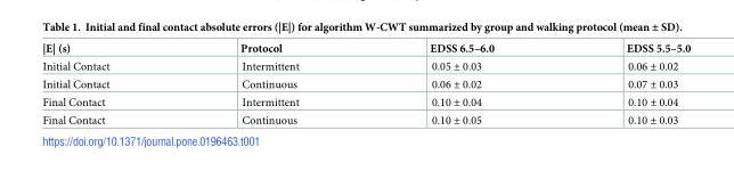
<table><thead><tr><td>|E| (s)</td><td>Protocol</td><td>EDSS 6.5–6.0</td><td>EDSS 5.5–5.0</td></tr></thead><tbody><tr><td>Initial Contact</td><td>Intermittent</td><td>0.05 ± 0.03</td><td>0.06 ± 0.02</td></tr><tr><td>Initial Contact</td><td>Continuous</td><td>0.06 ± 0.02</td><td>0.07 ± 0.03</td></tr><tr><td>Final Contact</td><td>Intermittent</td><td>0.10 ± 0.04</td><td>0.10 ± 0.04</td></tr><tr><td>Final Contact</td><td>Continuous</td><td>0.10 ± 0.05</td><td>0.10 ± 0.03</td></tr></tbody></table>